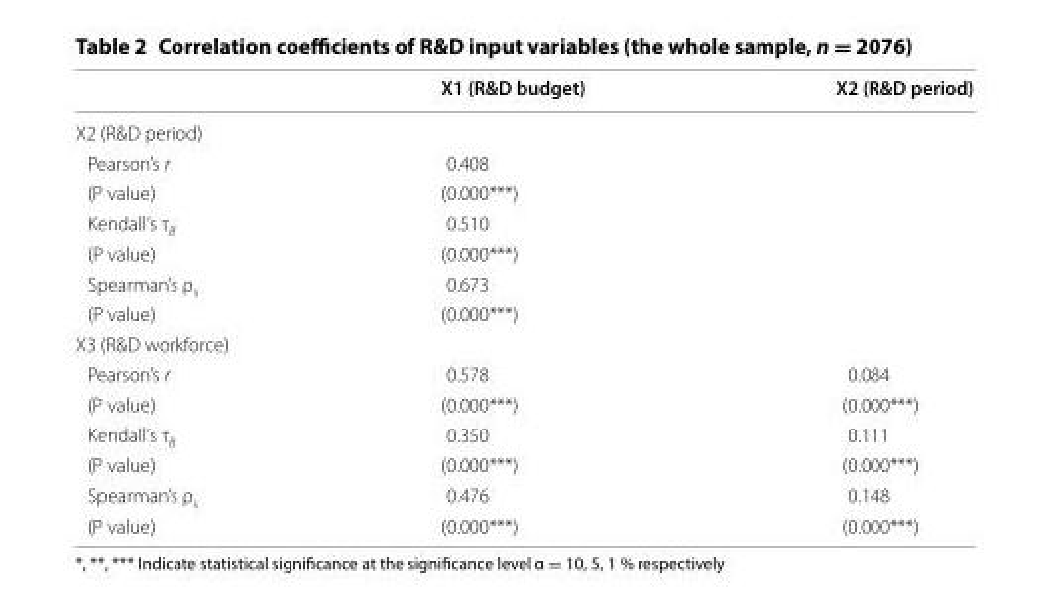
<table><thead><tr><td></td><td>X1 (R&amp;D budget)</td><td>X2 (R&amp;D period)</td></tr></thead><tbody><tr><td colspan="3">X2 (R&amp;D period)</td></tr><tr><td>Pearson’s r</td><td>0.408</td><td></td></tr><tr><td>(P value)</td><td>(0.000***)</td><td></td></tr><tr><td>Kendall’s τ<sub>B</sub></td><td>0.510</td><td></td></tr><tr><td>(P value)</td><td>(0.000***)</td><td></td></tr><tr><td>Spearman’s ρ<sub>s</sub></td><td>0.673</td><td></td></tr><tr><td>(P value)</td><td>(0.000***)</td><td></td></tr><tr><td colspan="3">X3 (R&amp;D workforce)</td></tr><tr><td>Pearson’s r</td><td>0.578</td><td>0.084</td></tr><tr><td>(P value)</td><td>(0.000***)</td><td>(0.000***)</td></tr><tr><td>Kendall’s τ<sub>B</sub></td><td>0.350</td><td>0.111</td></tr><tr><td>(P value)</td><td>(0.000***)</td><td>(0.000***)</td></tr><tr><td>Spearman’s ρ<sub>s</sub></td><td>0.476</td><td>0.148</td></tr><tr><td>(P value)</td><td>(0.000***)</td><td>(0.000***)</td></tr></tbody></table>